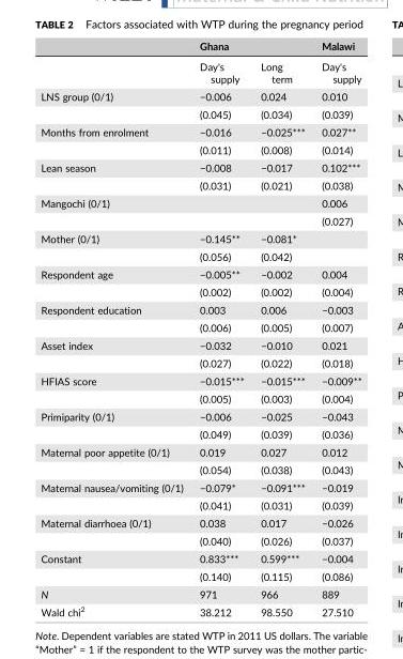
<table><thead><tr><td rowspan="2"></td><td colspan="2">Ghana</td><td rowspan="2">Malawi Day&#x27;s supply</td></tr><tr><td>Day&#x27;s supply</td><td>Long term</td></tr></thead><tbody><tr><td rowspan="2">LNS group (0/1)</td><td>−0.006</td><td>0.024</td><td>0.010</td></tr><tr><td>(0.045)</td><td>(0.034)</td><td>(0.039)</td></tr><tr><td rowspan="2">Months from enrolment</td><td>−0.016</td><td>−0.025***</td><td>0.027**</td></tr><tr><td>(0.011)</td><td>(0.008)</td><td>(0.014)</td></tr><tr><td rowspan="2">Lean season</td><td>−0.008</td><td>−0.017</td><td>0.102***</td></tr><tr><td>(0.031)</td><td>(0.021)</td><td>(0.038)</td></tr><tr><td rowspan="2">Mangochi (0/1)</td><td></td><td></td><td>0.006</td></tr><tr><td></td><td></td><td>(0.027)</td></tr><tr><td rowspan="2">Mother (0/1)</td><td>−0.145**</td><td>−0.081*</td><td></td></tr><tr><td>(0.056)</td><td>(0.042)</td><td></td></tr><tr><td rowspan="2">Respondent age</td><td>−0.005**</td><td>−0.002</td><td>0.004</td></tr><tr><td>(0.002)</td><td>(0.002)</td><td>(0.004)</td></tr><tr><td rowspan="2">Respondent education</td><td>0.003</td><td>0.006</td><td>−0.003</td></tr><tr><td>(0.006)</td><td>(0.005)</td><td>(0.007)</td></tr><tr><td rowspan="2">Asset index</td><td>−0.032</td><td>−0.010</td><td>0.021</td></tr><tr><td>(0.027)</td><td>(0.022)</td><td>(0.018)</td></tr><tr><td rowspan="2">HFIAS score</td><td>−0.015***</td><td>−0.015***</td><td>−0.009**</td></tr><tr><td>(0.005)</td><td>(0.003)</td><td>(0.004)</td></tr><tr><td rowspan="2">Primiparity (0/1)</td><td>−0.006</td><td>−0.025</td><td>−0.043</td></tr><tr><td>(0.049)</td><td>(0.039)</td><td>(0.036)</td></tr><tr><td rowspan="2">Maternal poor appetite (0/1)</td><td>0.019</td><td>0.027</td><td>0.012</td></tr><tr><td>(0.054)</td><td>(0.038)</td><td>(0.043)</td></tr><tr><td rowspan="2">Maternal nausea/vomiting (0/1)</td><td>−0.079*</td><td>−0.091***</td><td>−0.019</td></tr><tr><td>(0.041)</td><td>(0.031)</td><td>(0.039)</td></tr><tr><td rowspan="2">Maternal diarrhoea (0/1)</td><td>0.038</td><td>0.017</td><td>−0.026</td></tr><tr><td>(0.040)</td><td>(0.026)</td><td>(0.037)</td></tr><tr><td rowspan="2">Constant</td><td>0.833***</td><td>0.599***</td><td>−0.004</td></tr><tr><td>(0.140)</td><td>(0.115)</td><td>(0.086)</td></tr><tr><td>N</td><td>971</td><td>966</td><td>889</td></tr><tr><td>Wald chi<sup>2</sup></td><td>38.212</td><td>98.550</td><td>27.510</td></tr></tbody></table>